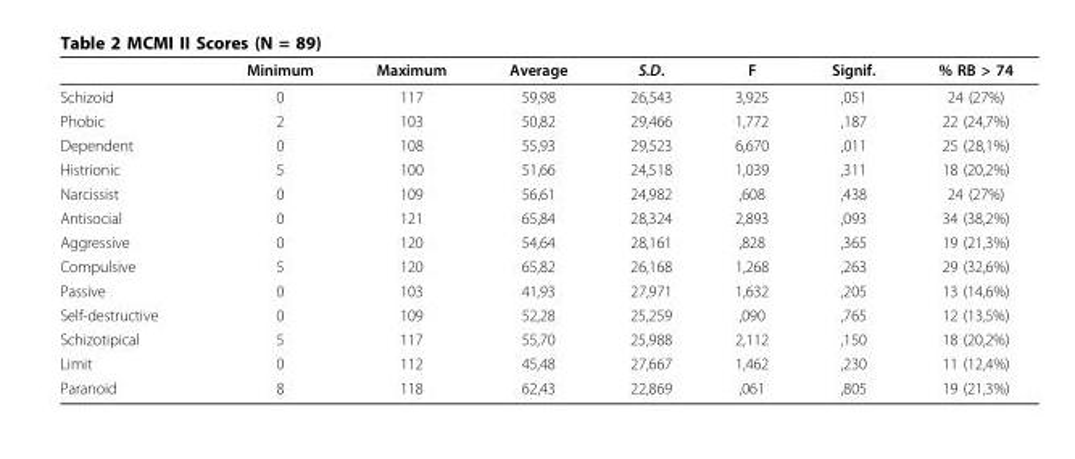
<table><thead><tr><td></td><td>Minimum</td><td>Maximum</td><td>Average</td><td>S.D.</td><td>F</td><td>Signif.</td><td>% RB &gt; 74</td></tr></thead><tbody><tr><td>Schizoid</td><td>0</td><td>117</td><td>59,98</td><td>26,543</td><td>3,925</td><td>,051</td><td>24 (27%)</td></tr><tr><td>Phobic</td><td>2</td><td>103</td><td>50,82</td><td>29,466</td><td>1,772</td><td>,187</td><td>22 (24,7%)</td></tr><tr><td>Dependent</td><td>0</td><td>108</td><td>55,93</td><td>29,523</td><td>6,670</td><td>,011</td><td>25 (28,1%)</td></tr><tr><td>Histrionic</td><td>5</td><td>100</td><td>51,66</td><td>24,518</td><td>1,039</td><td>,311</td><td>18 (20,2%)</td></tr><tr><td>Narcissist</td><td>0</td><td>109</td><td>56,61</td><td>24,982</td><td>,608</td><td>,438</td><td>24 (27%)</td></tr><tr><td>Antisocial</td><td>0</td><td>121</td><td>65,84</td><td>28,324</td><td>2,893</td><td>,093</td><td>34 (38,2%)</td></tr><tr><td>Aggressive</td><td>0</td><td>120</td><td>54,64</td><td>28,161</td><td>,828</td><td>,365</td><td>19 (21,3%)</td></tr><tr><td>Compulsive</td><td>5</td><td>120</td><td>65,82</td><td>26,168</td><td>1,268</td><td>,263</td><td>29 (32,6%)</td></tr><tr><td>Passive</td><td>0</td><td>103</td><td>41,93</td><td>27,971</td><td>1,632</td><td>,205</td><td>13 (14,6%)</td></tr><tr><td>Self-destructive</td><td>0</td><td>109</td><td>52,28</td><td>25,259</td><td>,090</td><td>,765</td><td>12 (13,5%)</td></tr><tr><td>Schizotipical</td><td>5</td><td>117</td><td>55,70</td><td>25,988</td><td>2,112</td><td>,150</td><td>18 (20,2%)</td></tr><tr><td>Limit</td><td>0</td><td>112</td><td>45,48</td><td>27,667</td><td>1,462</td><td>,230</td><td>11 (12,4%)</td></tr><tr><td>Paranoid</td><td>8</td><td>118</td><td>62,43</td><td>22,869</td><td>,061</td><td>,805</td><td>19 (21,3%)</td></tr></tbody></table>